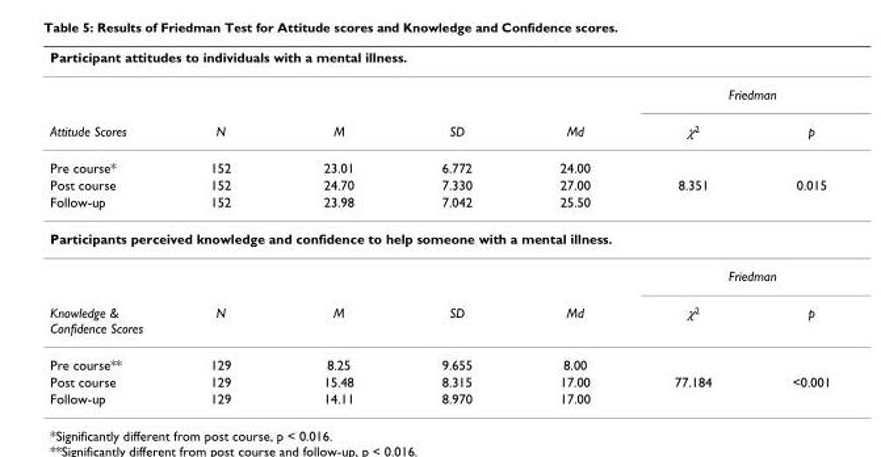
<table><thead><tr><td colspan="7">Participant attitudes to individuals with a mental illness.</td></tr><tr><td rowspan="2">Attitude Scores</td><td rowspan="2">N</td><td rowspan="2">M</td><td rowspan="2">SD</td><td rowspan="2">Md</td><td colspan="2">Friedman</td></tr><tr><td>χ<sup>2</sup></td><td>p</td></tr></thead><tbody><tr><td>Pre course*</td><td>152</td><td>23.01</td><td>6.772</td><td>24.00</td><td></td><td></td></tr><tr><td>Post course</td><td>152</td><td>24.70</td><td>7.330</td><td>27.00</td><td>8.351</td><td>0.015</td></tr><tr><td>Follow-up</td><td>152</td><td>23.98</td><td>7.042</td><td>25.50</td><td></td><td></td></tr><tr><td colspan="7">Participants perceived knowledge and confidence to help someone with a mental illness.</td></tr><tr><td></td><td></td><td></td><td></td><td></td><td colspan="2">Friedman</td></tr><tr><td>Knowledge &amp; Confidence Scores</td><td>N</td><td>M</td><td>SD</td><td>Md</td><td>χ<sup>2</sup></td><td>p</td></tr><tr><td>Pre course**</td><td>129</td><td>8.25</td><td>9.655</td><td>8.00</td><td></td><td></td></tr><tr><td>Post course</td><td>129</td><td>15.48</td><td>8.315</td><td>17.00</td><td>77.184</td><td>&lt;0.001</td></tr><tr><td>Follow-up</td><td>129</td><td>14.11</td><td>8.970</td><td>17.00</td><td></td><td></td></tr></tbody></table>